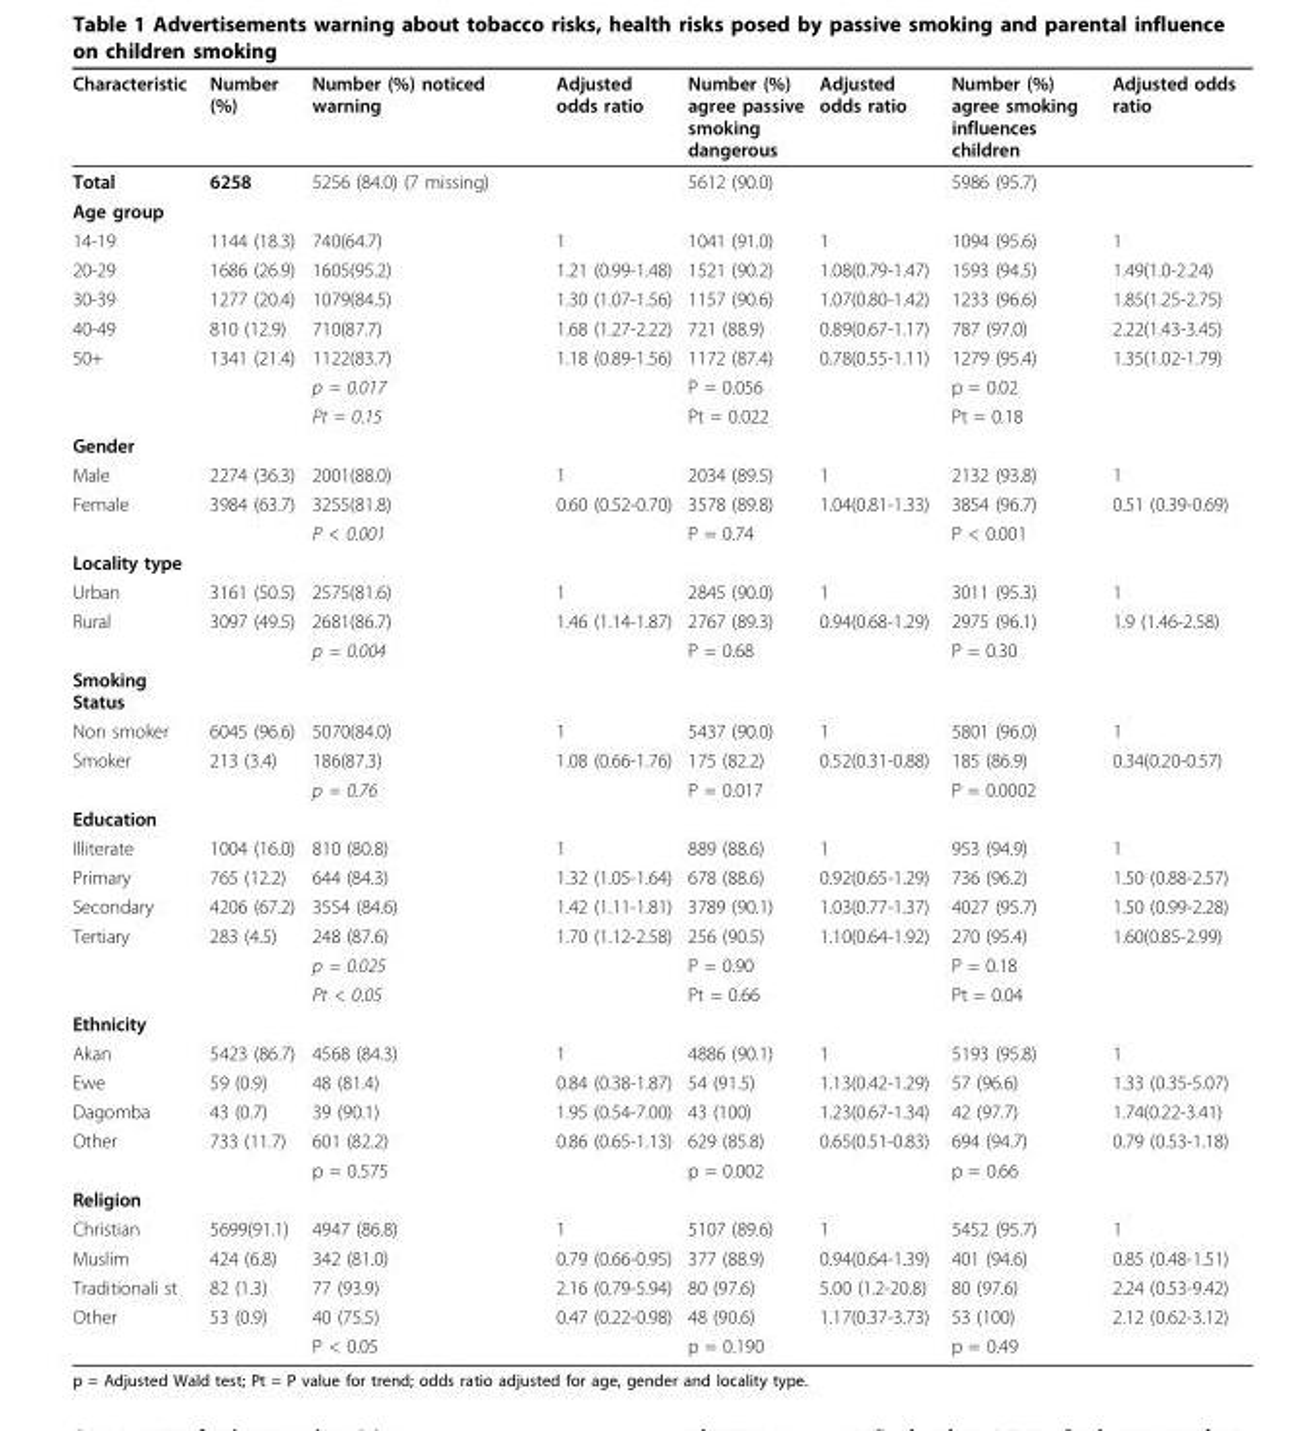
<table><thead><tr><td>Characteristic</td><td>Number (%)</td><td>Number (%) noticed warning</td><td>Adjusted odds ratio</td><td>Number (%) agree passive smoking dangerous</td><td>Adjusted odds ratio</td><td>Number (%) agree smoking influences children</td><td>Adjusted odds ratio</td></tr></thead><tbody><tr><td>Total</td><td>6258</td><td>5256 (84.0) (7 missing)</td><td></td><td>5612 (90.0)</td><td></td><td>5986 (95.7)</td><td></td></tr><tr><td colspan="8">Age group</td></tr><tr><td>14-19</td><td>1144 (18.3)</td><td>740(64.7)</td><td>1</td><td>1041 (91.0)</td><td>1</td><td>1094 (95.6)</td><td>1</td></tr><tr><td>20-29</td><td>1686 (26.9)</td><td>1605(95.2)</td><td>1.21 (0.99-1.48)</td><td>1521 (90.2)</td><td>1.08(0.79-1.47)</td><td>1593 (94.5)</td><td>1.49(1.0-2.24)</td></tr><tr><td>30-39</td><td>1277 (20.4)</td><td>1079(84.5)</td><td>1.30 (1.07-1.56)</td><td>1157 (90.6)</td><td>1.07(0.80-1.42)</td><td>1233 (96.6)</td><td>1.85(1.25-2.75)</td></tr><tr><td>40-49</td><td>810 (12.9)</td><td>710(87.7)</td><td>1.68 (1.27-2.22)</td><td>721 (88.9)</td><td>0.89(0.67-1.17)</td><td>787 (97.0)</td><td>2.22(1.43-3.45)</td></tr><tr><td rowspan="3">50+</td><td>1341 (21.4)</td><td>1122(83.7)</td><td>1.18 (0.89-1.56)</td><td>1172 (87.4)</td><td>0.78(0.55-1.11)</td><td>1279 (95.4)</td><td>1.35(1.02-1.79)</td></tr><tr><td></td><td>p = 0.017</td><td></td><td>P = 0.056</td><td></td><td>p = 0.02</td><td></td></tr><tr><td></td><td>Pt = 0.15</td><td></td><td>Pt = 0.022</td><td></td><td>Pt = 0.18</td><td></td></tr><tr><td colspan="8">Gender</td></tr><tr><td>Male</td><td>2274 (36.3)</td><td>2001(88.0)</td><td>1</td><td>2034 (89.5)</td><td>1</td><td>2132 (93.8)</td><td>1</td></tr><tr><td rowspan="2">Female</td><td>3984 (63.7)</td><td>3255(81.8)</td><td>0.60 (0.52-0.70)</td><td>3578 (89.8)</td><td>1.04(0.81-1.33)</td><td>3854 (96.7)</td><td>0.51 (0.39-0.69)</td></tr><tr><td></td><td>P &lt; 0.001</td><td></td><td>P = 0.74</td><td></td><td>P &lt; 0.001</td><td></td></tr><tr><td colspan="8">Locality type</td></tr><tr><td>Urban</td><td>3161 (50.5)</td><td>2575(81.6)</td><td>1</td><td>2845 (90.0)</td><td>1</td><td>3011 (95.3)</td><td>1</td></tr><tr><td rowspan="2">Rural</td><td>3097 (49.5)</td><td>2681(86.7)</td><td>1.46 (1.14-1.87)</td><td>2767 (89.3)</td><td>0.94(0.68-1.29)</td><td>2975 (96.1)</td><td>1.9 (1.46-2.58)</td></tr><tr><td></td><td>p = 0.004</td><td></td><td>P = 0.68</td><td></td><td>P = 0.30</td><td></td></tr><tr><td colspan="8">Smoking Status</td></tr><tr><td>Non smoker</td><td>6045 (96.6)</td><td>5070(84.0)</td><td>1</td><td>5437 (90.0)</td><td>1</td><td>5801 (96.0)</td><td>1</td></tr><tr><td rowspan="2">Smoker</td><td>213 (3.4)</td><td>186(87.3)</td><td>1.08 (0.66-1.76)</td><td>175 (82.2)</td><td>0.52(0.31-0.88)</td><td>185 (86.9)</td><td>0.34(0.20-0.57)</td></tr><tr><td></td><td>p = 0.76</td><td></td><td>P = 0.017</td><td></td><td>P = 0.0002</td><td></td></tr><tr><td colspan="8">Education</td></tr><tr><td>Illiterate</td><td>1004 (16.0)</td><td>810 (80.8)</td><td>1</td><td>889 (88.6)</td><td>1</td><td>953 (94.9)</td><td>1</td></tr><tr><td>Primary</td><td>765 (12.2)</td><td>644 (84.3)</td><td>1.32 (1.05-1.64)</td><td>678 (88.6)</td><td>0.92(0.65-1.29)</td><td>736 (96.2)</td><td>1.50 (0.88-2.57)</td></tr><tr><td>Secondary</td><td>4206 (67.2)</td><td>3554 (84.6)</td><td>1.42 (1.11-1.81)</td><td>3789 (90.1)</td><td>1.03(0.77-1.37)</td><td>4027 (95.7)</td><td>1.50 (0.99-2.28)</td></tr><tr><td rowspan="3">Tertiary</td><td>283 (4.5)</td><td>248 (87.6)</td><td>1.70 (1.12-2.58)</td><td>256 (90.5)</td><td>1.10(0.64-1.92)</td><td>270 (95.4)</td><td>1.60(0.85-2.99)</td></tr><tr><td></td><td>p = 0.025</td><td></td><td>P = 0.90</td><td></td><td>P = 0.18</td><td></td></tr><tr><td></td><td>Pt &lt; 0.05</td><td></td><td>Pt = 0.66</td><td></td><td>Pt = 0.04</td><td></td></tr><tr><td colspan="8">Ethnicity</td></tr><tr><td>Akan</td><td>5423 (86.7)</td><td>4568 (84.3)</td><td>1</td><td>4886 (90.1)</td><td>1</td><td>5193 (95.8)</td><td>1</td></tr><tr><td>Ewe</td><td>59 (0.9)</td><td>48 (81.4)</td><td>0.84 (0.38-1.87)</td><td>54 (91.5)</td><td>1.13(0.42-1.29)</td><td>57 (96.6)</td><td>1.33 (0.35-5.07)</td></tr><tr><td>Dagomba</td><td>43 (0.7)</td><td>39 (90.1)</td><td>1.95 (0.54-7.00)</td><td>43 (100)</td><td>1.23(0.67-1.34)</td><td>42 (97.7)</td><td>1.74(0.22-3.41)</td></tr><tr><td rowspan="2">Other</td><td>733 (11.7)</td><td>601 (82.2)</td><td>0.86 (0.65-1.13)</td><td>629 (85.8)</td><td>0.65(0.51-0.83)</td><td>694 (94.7)</td><td>0.79 (0.53-1.18)</td></tr><tr><td></td><td>p = 0.575</td><td></td><td>p = 0.002</td><td></td><td>p = 0.66</td><td></td></tr><tr><td colspan="8">Religion</td></tr><tr><td>Christian</td><td>5699(91.1)</td><td>4947 (86.8)</td><td>1</td><td>5107 (89.6)</td><td>1</td><td>5452 (95.7)</td><td>1</td></tr><tr><td>Muslim</td><td>424 (6.8)</td><td>342 (81.0)</td><td>0.79 (0.66-0.95)</td><td>377 (88.9)</td><td>0.94(0.64-1.39)</td><td>401 (94.6)</td><td>0.85 (0.48-1.51)</td></tr><tr><td>Traditionali st</td><td>82 (1.3)</td><td>77 (93.9)</td><td>2.16 (0.79-5.94)</td><td>80 (97.6)</td><td>5.00 (1.2-20.8)</td><td>80 (97.6)</td><td>2.24 (0.53-9.42)</td></tr><tr><td rowspan="2">Other</td><td>53 (0.9)</td><td>40 (75.5)</td><td>0.47 (0.22-0.98)</td><td>48 (90.6)</td><td>1.17(0.37-3.73)</td><td>53 (100)</td><td>2.12 (0.62-3.12)</td></tr><tr><td></td><td>P &lt; 0.05</td><td></td><td>p = 0.190</td><td></td><td>p = 0.49</td><td></td></tr></tbody></table>